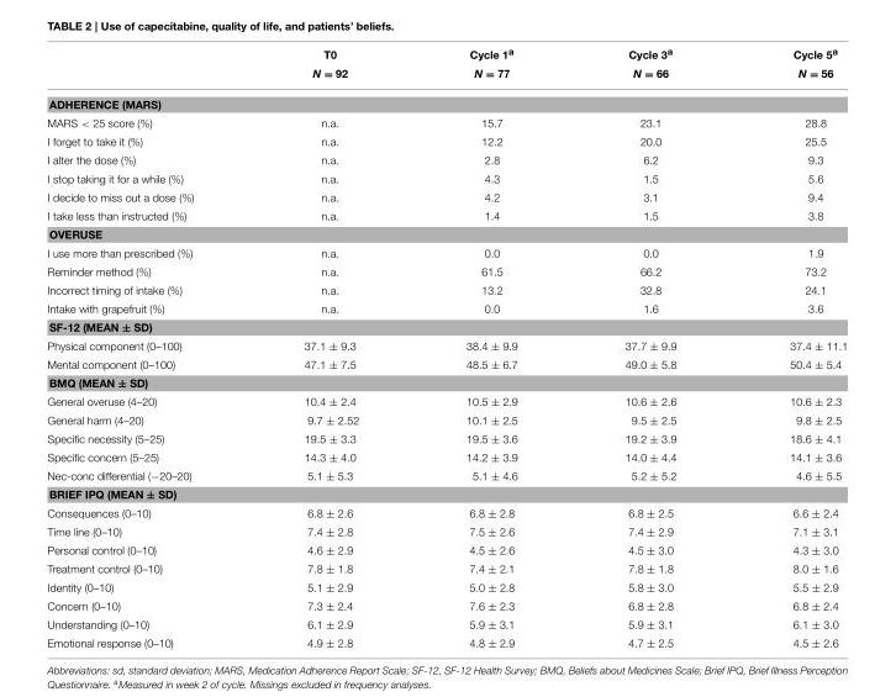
<table><thead><tr><td rowspan="2"></td><td rowspan="2">T0 N = 92</td><td rowspan="2">Cycle 1<sup>a</sup> N = 77</td><td rowspan="2">Cycle 3<sup>a</sup> N = 66</td><td rowspan="2">Cycle 5<sup>a</sup> N = 56</td></tr><tr></tr></thead><tbody><tr><td colspan="5">ADHERENCE (MARS)</td></tr><tr><td>MARS &lt; 25 score (%)</td><td>n.a.</td><td>15.7</td><td>23.1</td><td>28.8</td></tr><tr><td>I forget to take it (%)</td><td>n.a.</td><td>12.2</td><td>20.0</td><td>25.5</td></tr><tr><td>I alter the dose (%)</td><td>n.a.</td><td>2.8</td><td>6.2</td><td>9.3</td></tr><tr><td>I stop taking it for a while (%)</td><td>n.a.</td><td>4.3</td><td>1.5</td><td>5.6</td></tr><tr><td>I decide to miss out a dose (%)</td><td>n.a.</td><td>4.2</td><td>3.1</td><td>9.4</td></tr><tr><td>I take less than instructed (%)</td><td>n.a.</td><td>1.4</td><td>1.5</td><td>3.8</td></tr><tr><td colspan="5">OVERUSE</td></tr><tr><td>I use more than prescribed (%)</td><td>n.a.</td><td>0.0</td><td>0.0</td><td>1.9</td></tr><tr><td>Reminder method (%)</td><td>n.a.</td><td>61.5</td><td>66.2</td><td>73.2</td></tr><tr><td>Incorrect timing of intake (%)</td><td>n.a.</td><td>13.2</td><td>32.8</td><td>24.1</td></tr><tr><td>Intake with grapefruit (%)</td><td>n.a.</td><td>0.0</td><td>1.6</td><td>3.6</td></tr><tr><td colspan="5">SF-12 (MEAN ± SD)</td></tr><tr><td>Physical component (0–100)</td><td>37.1 ± 9.3</td><td>38.4 ± 9.9</td><td>37.7 ± 9.9</td><td>37.4 ± 11.1</td></tr><tr><td>Mental component (0–100)</td><td>47.1 ± 7.5</td><td>48.5 ± 6.7</td><td>49.0 ± 5.8</td><td>50.4 ± 5.4</td></tr><tr><td colspan="5">BMQ (MEAN ± SD)</td></tr><tr><td>General overuse (4–20)</td><td>10.4 ± 2.4</td><td>10.5 ± 2.9</td><td>10.6 ± 2.6</td><td>10.6 ± 2.3</td></tr><tr><td>General harm (4–20)</td><td>9.7 ± 2.52</td><td>10.1 ± 2.5</td><td>9.5 ± 2.5</td><td>9.8 ± 2.5</td></tr><tr><td>Specific necessity (5–25)</td><td>19.5 ± 3.3</td><td>19.5 ± 3.6</td><td>19.2 ± 3.9</td><td>18.6 ± 4.1</td></tr><tr><td>Specific concern (5–25)</td><td>14.3 ± 4.0</td><td>14.2 ± 3.9</td><td>14.0 ± 4.4</td><td>14.1 ± 3.6</td></tr><tr><td>Nec-conc differential (−20–20)</td><td>5.1 ± 5.3</td><td>5.1 ± 4.6</td><td>5.2 ± 5.2</td><td>4.6 ± 5.5</td></tr><tr><td colspan="5">BRIEF IPQ (MEAN ± SD)</td></tr><tr><td>Consequences (0–10)</td><td>6.8 ± 2.6</td><td>6.8 ± 2.8</td><td>6.8 ± 2.5</td><td>6.6 ± 2.4</td></tr><tr><td>Time line (0–10)</td><td>7.4 ± 2.8</td><td>7.5 ± 2.6</td><td>7.4 ± 2.9</td><td>7.1 ± 3.1</td></tr><tr><td>Personal control (0–10)</td><td>4.6 ± 2.9</td><td>4.5 ± 2.6</td><td>4.5 ± 3.0</td><td>4.3 ± 3.0</td></tr><tr><td>Treatment control (0–10)</td><td>7.8 ± 1.8</td><td>7.4 ± 2.1</td><td>7.8 ± 1.8</td><td>8.0 ± 1.6</td></tr><tr><td>Identity (0–10)</td><td>5.1 ± 2.9</td><td>5.0 ± 2.8</td><td>5.8 ± 3.0</td><td>5.5 ± 2.9</td></tr><tr><td>Concern (0–10)</td><td>7.3 ± 2.4</td><td>7.6 ± 2.3</td><td>6.8 ± 2.8</td><td>6.8 ± 2.4</td></tr><tr><td>Understanding (0–10)</td><td>6.1 ± 2.9</td><td>5.9 ± 3.1</td><td>5.9 ± 3.1</td><td>6.1 ± 3.0</td></tr><tr><td>Emotional response (0–10)</td><td>4.9 ± 2.8</td><td>4.8 ± 2.9</td><td>4.7 ± 2.5</td><td>4.5 ± 2.6</td></tr></tbody></table>